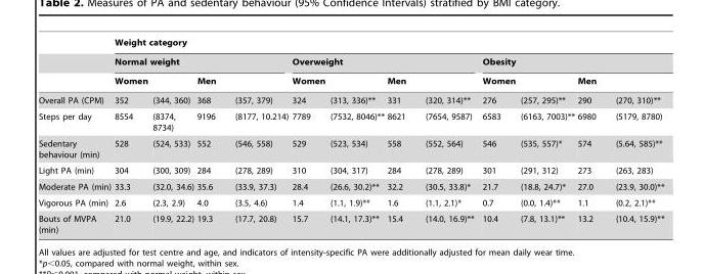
<table><thead><tr><td rowspan="4">Overall PA (CPM)</td><td colspan="12">Weight category</td></tr><tr><td colspan="4">Normal weight</td><td colspan="4">Overweight</td><td colspan="4">Obesity</td></tr><tr><td colspan="2">Women</td><td colspan="2">Men</td><td colspan="2">Women</td><td colspan="2">Men</td><td colspan="2">Women</td><td colspan="2">Men</td></tr><tr><td>352</td><td>(344, 360)</td><td>368</td><td>(357, 379)</td><td>324</td><td>(313, 336)**</td><td>331</td><td>(320, 314)**</td><td>276</td><td>(257, 295)**</td><td>290</td><td>(270, 310)**</td></tr></thead><tbody><tr><td>Steps per day</td><td>8554</td><td>(8374, 8734)</td><td>9196</td><td>(8177, 10.214)</td><td>7789</td><td>(7532, 8046)**</td><td>8621</td><td>(7654, 9587)</td><td>6583</td><td>(6163, 7003)**</td><td>6980</td><td>(5179, 8780)</td></tr><tr><td>Sedentary behaviour (min)</td><td>528</td><td>(524, 533)</td><td>552</td><td>(546, 558)</td><td>529</td><td>(523, 534)</td><td>558</td><td>(552, 564)</td><td>546</td><td>(535, 557)*</td><td>574</td><td>(5.64, 585)**</td></tr><tr><td>Light PA (min)</td><td>304</td><td>(300, 309)</td><td>284</td><td>(278, 289)</td><td>310</td><td>(304, 317)</td><td>284</td><td>(278, 289)</td><td>301</td><td>(291, 312)</td><td>273</td><td>(263, 283)</td></tr><tr><td>Moderate PA (min)</td><td>33.3</td><td>(32.0, 34.6)</td><td>35.6</td><td>(33.9, 37.3)</td><td>28.4</td><td>(26.6, 30.2)**</td><td>32.2</td><td>(30.5, 33.8)*</td><td>21.7</td><td>(18.8, 24.7)*</td><td>27.0</td><td>(23.9, 30.0)**</td></tr><tr><td>Vigorous PA (min)</td><td>2.6</td><td>(2.3, 2.9)</td><td>4.0</td><td>(3.5, 4.6)</td><td>1.4</td><td>(1.1, 1.9)**</td><td>1.6</td><td>(1.1, 2.1)*</td><td>0.7</td><td>(0.0, 1.4)**</td><td>1.1</td><td>(0.2, 2.1)**</td></tr><tr><td>Bouts of MVPA (min)</td><td>21.0</td><td>(19.9, 22.2)</td><td>19.3</td><td>(17.7, 20.8)</td><td>15.7</td><td>(14.1, 17.3)**</td><td>15.4</td><td>(14.0, 16.9)**</td><td>10.4</td><td>(7.8, 13.1)**</td><td>13.2</td><td>(10.4, 15.9)**</td></tr></tbody></table>